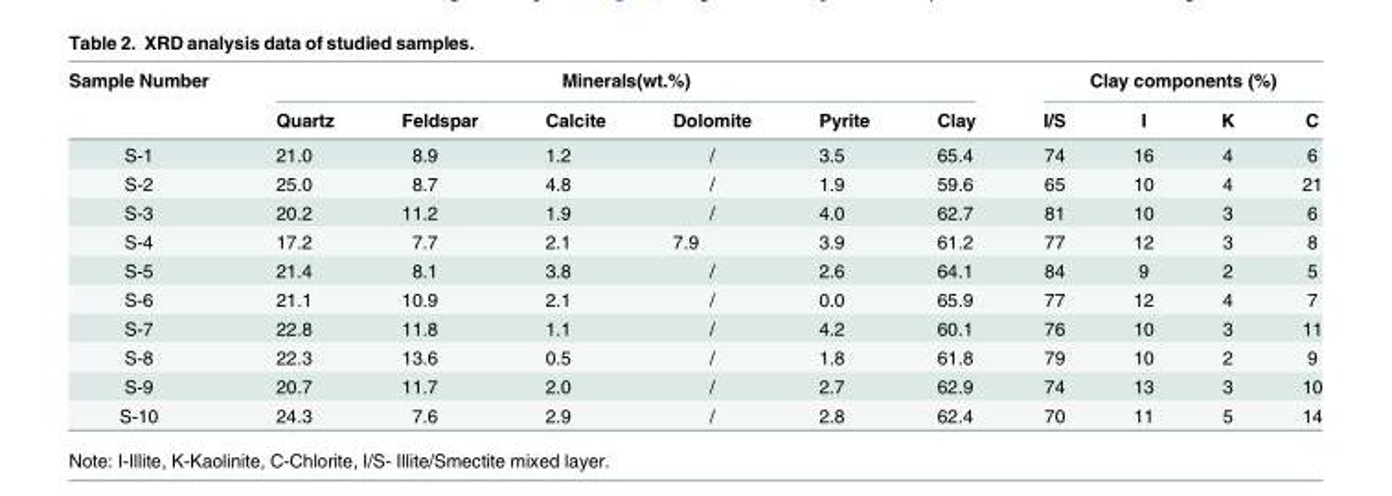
<table><thead><tr><td rowspan="2">Sample Number</td><td colspan="6">Minerals(wt.%)</td><td colspan="4">Clay components (%)</td></tr><tr><td>Quartz</td><td>Feldspar</td><td>Calcite</td><td>Dolomite</td><td>Pyrite</td><td>Clay</td><td>I/S</td><td>I</td><td>K</td><td>C</td></tr></thead><tbody><tr><td>S-1</td><td>21.0</td><td>8.9</td><td>1.2</td><td>/</td><td>3.5</td><td>65.4</td><td>74</td><td>16</td><td>4</td><td>6</td></tr><tr><td>S-2</td><td>25.0</td><td>8.7</td><td>4.8</td><td>/</td><td>1.9</td><td>59.6</td><td>65</td><td>10</td><td>4</td><td>21</td></tr><tr><td>S-3</td><td>20.2</td><td>11.2</td><td>1.9</td><td>/</td><td>4.0</td><td>62.7</td><td>81</td><td>10</td><td>3</td><td>6</td></tr><tr><td>S-4</td><td>17.2</td><td>7.7</td><td>2.1</td><td>7.9</td><td>3.9</td><td>61.2</td><td>77</td><td>12</td><td>3</td><td>8</td></tr><tr><td>S-5</td><td>21.4</td><td>8.1</td><td>3.8</td><td>/</td><td>2.6</td><td>64.1</td><td>84</td><td>9</td><td>2</td><td>5</td></tr><tr><td>S-6</td><td>21.1</td><td>10.9</td><td>2.1</td><td>/</td><td>0.0</td><td>65.9</td><td>77</td><td>12</td><td>4</td><td>7</td></tr><tr><td>S-7</td><td>22.8</td><td>11.8</td><td>1.1</td><td>/</td><td>4.2</td><td>60.1</td><td>76</td><td>10</td><td>3</td><td>11</td></tr><tr><td>S-8</td><td>22.3</td><td>13.6</td><td>0.5</td><td>/</td><td>1.8</td><td>61.8</td><td>79</td><td>10</td><td>2</td><td>9</td></tr><tr><td>S-9</td><td>20.7</td><td>11.7</td><td>2.0</td><td>/</td><td>2.7</td><td>62.9</td><td>74</td><td>13</td><td>3</td><td>10</td></tr><tr><td>S-10</td><td>24.3</td><td>7.6</td><td>2.9</td><td>/</td><td>2.8</td><td>62.4</td><td>70</td><td>11</td><td>5</td><td>14</td></tr></tbody></table>